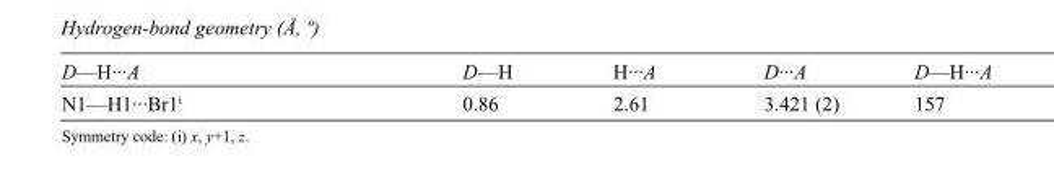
<table><tbody><tr><td>D—H···A</td><td>D—H</td><td>H···A</td><td>D···A</td><td>D—H···A</td></tr><tr><td>N1—H1···Br1<sup>i</sup></td><td>0.86</td><td>2.61</td><td>3.421 (2)</td><td>157</td></tr></tbody></table>